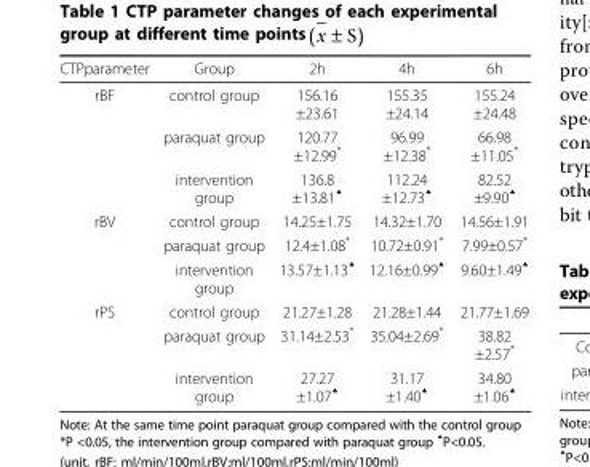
<table><thead><tr><td>CTPparameter</td><td>Group</td><td>2h</td><td>4h</td><td>6h</td></tr></thead><tbody><tr><td rowspan="3">rBF</td><td>control group</td><td>156.16 ±23.61</td><td>155.35 ±24.14</td><td>155.24 ±24.48</td></tr><tr><td>paraquat group</td><td>120.77 ±12.99*</td><td>96.99 ±12.38*</td><td>66.98 ±11.05*</td></tr><tr><td>intervention group</td><td>136.8 ±13.81<sup>▲</sup></td><td>112.24 ±12.73<sup>▲</sup></td><td>82.52 ±9.90<sup>▲</sup></td></tr><tr><td rowspan="3">rBV</td><td>control group</td><td>14.25±1.75</td><td>14.32±1.70</td><td>14.56±1.91</td></tr><tr><td>paraquat group</td><td>12.4±1.08*</td><td>10.72±0.91*</td><td>7.99±0.57*</td></tr><tr><td>intervention group</td><td>13.57±1.13<sup>▲</sup></td><td>12.16±0.99<sup>▲</sup></td><td>9.60±1.49<sup>▲</sup></td></tr><tr><td rowspan="3">rPS</td><td>control group</td><td>21.27±1.28</td><td>21.28±1.44</td><td>21.77±1.69</td></tr><tr><td>paraquat group</td><td>31.14±2.53*</td><td>35.04±2.69*</td><td>38.82 ±2.57*</td></tr><tr><td>intervention group</td><td>27.27 ±1.07<sup>▲</sup></td><td>31.17 ±1.40<sup>▲</sup></td><td>34.80 ±1.06<sup>▲</sup></td></tr></tbody></table>